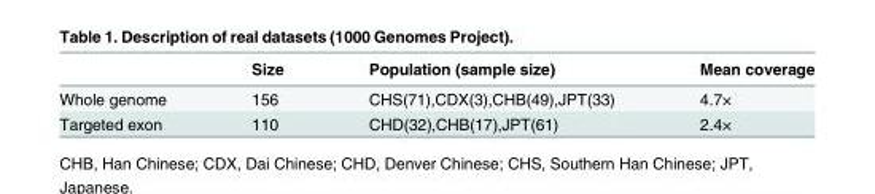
<table><thead><tr><td></td><td>Size</td><td>Population (sample size)</td><td>Mean coverage</td></tr></thead><tbody><tr><td>Whole genome</td><td>156</td><td>CHS(71),CDX(3),CHB(49),JPT(33)</td><td>4.7×</td></tr><tr><td>Targeted exon</td><td>110</td><td>CHD(32),CHB(17),JPT(61)</td><td>2.4×</td></tr></tbody></table>